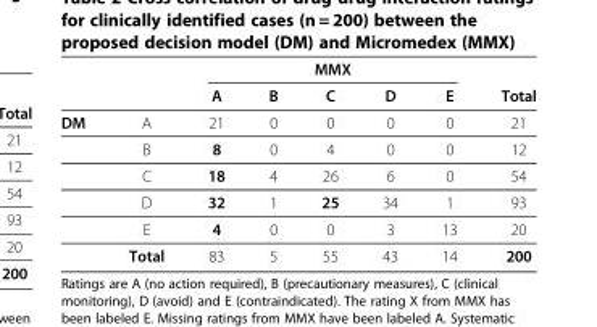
<table><thead><tr><td rowspan="2"></td><td rowspan="2"></td><td colspan="5">MMX</td><td rowspan="2">Total</td></tr><tr><td>A</td><td>B</td><td>C</td><td>D</td><td>E</td></tr></thead><tbody><tr><td rowspan="6">DM</td><td>A</td><td>21</td><td>0</td><td>0</td><td>0</td><td>0</td><td>21</td></tr><tr><td>B</td><td>8</td><td>0</td><td>4</td><td>0</td><td>0</td><td>12</td></tr><tr><td>C</td><td>18</td><td>4</td><td>26</td><td>6</td><td>0</td><td>54</td></tr><tr><td>D</td><td>32</td><td>1</td><td>25</td><td>34</td><td>1</td><td>93</td></tr><tr><td>E</td><td>4</td><td>0</td><td>0</td><td>3</td><td>13</td><td>20</td></tr><tr><td>Total</td><td>83</td><td>5</td><td>55</td><td>43</td><td>14</td><td>200</td></tr></tbody></table>